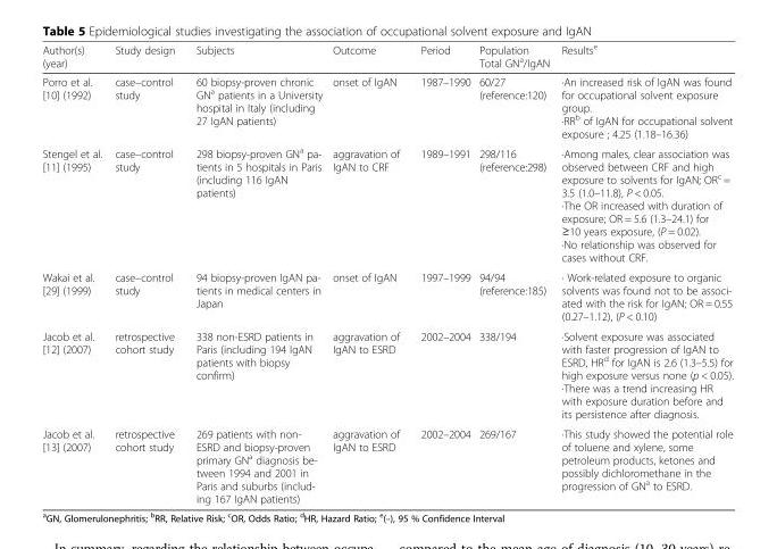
<table><thead><tr><td>Author(s) (year)</td><td>Study design</td><td>Subjects</td><td>Outcome</td><td>Period</td><td>Population Total GN<sup>a</sup>/IgAN</td><td>Results<sup>e</sup></td></tr></thead><tbody><tr><td>Porro et al. [10] (1992)</td><td>case–control study</td><td>60 biopsy-proven chronic GN<sup>a</sup> patients in a University hospital in Italy (including 27 IgAN patients)</td><td>onset of IgAN</td><td>1987–1990</td><td>60/27 (reference:120)</td><td>·An increased risk of IgAN was found for occupational solvent exposure group. ·RR<sup>b</sup> of IgAN for occupational solvent exposure ; 4.25 (1.18–16.36)</td></tr><tr><td>Stengel et al. [11] (1995)</td><td>case–control study</td><td>298 biopsy-proven GNa pa- tients in 5 hospitals in Paris (including 116 IgAN patients)</td><td>aggravation of IgAN to CRF</td><td>1989–1991</td><td>298/116 (reference:298)</td><td>·Among males, clear association was observed between CRF and high exposure to solvents for IgAN; OR<sup>c</sup> = 3.5 (1.0–11.8), P &lt; 0.05. ·The OR increased with duration of exposure; OR = 5.6 (1.3–24.1) for ≥10 years exposure, (P = 0.02). ·No relationship was observed for cases without CRF.</td></tr><tr><td>Wakai et al. [29] (1999)</td><td>case–control study</td><td>94 biopsy-proven IgAN pa- tients in medical centers in Japan</td><td>onset of IgAN</td><td>1997–1999</td><td>94/94 (reference:185)</td><td>· Work-related exposure to organic solvents was found not to be associ- ated with the risk for IgAN; OR = 0.55 (0.27–1.12), (P &lt; 0.10)</td></tr><tr><td>Jacob et al. [12] (2007)</td><td>retrospective cohort study</td><td>338 non-ESRD patients in Paris (including 194 IgAN patients with biopsy confirm)</td><td>aggravation of IgAN to ESRD</td><td>2002–2004</td><td>338/194</td><td>·Solvent exposure was associated with faster progression of IgAN to ESRD, HR<sup>d</sup> for IgAN is 2.6 (1.3–5.5) for high exposure versus none (p &lt; 0.05). ·There was a trend increasing HR with exposure duration before and its persistence after diagnosis.</td></tr><tr><td>Jacob et al. [13] (2007)</td><td>retrospective cohort study</td><td>269 patients with non- ESRD and biopsy-proven primary GNa diagnosis be- tween 1994 and 2001 in Paris and suburbs (includ- ing 167 IgAN patients)</td><td>aggravation of IgAN to ESRD</td><td>2002–2004</td><td>269/167</td><td>·This study showed the potential role of toluene and xylene, some petroleum products, ketones and possibly dichloromethane in the progression of GN<sup>a</sup> to ESRD.</td></tr></tbody></table>